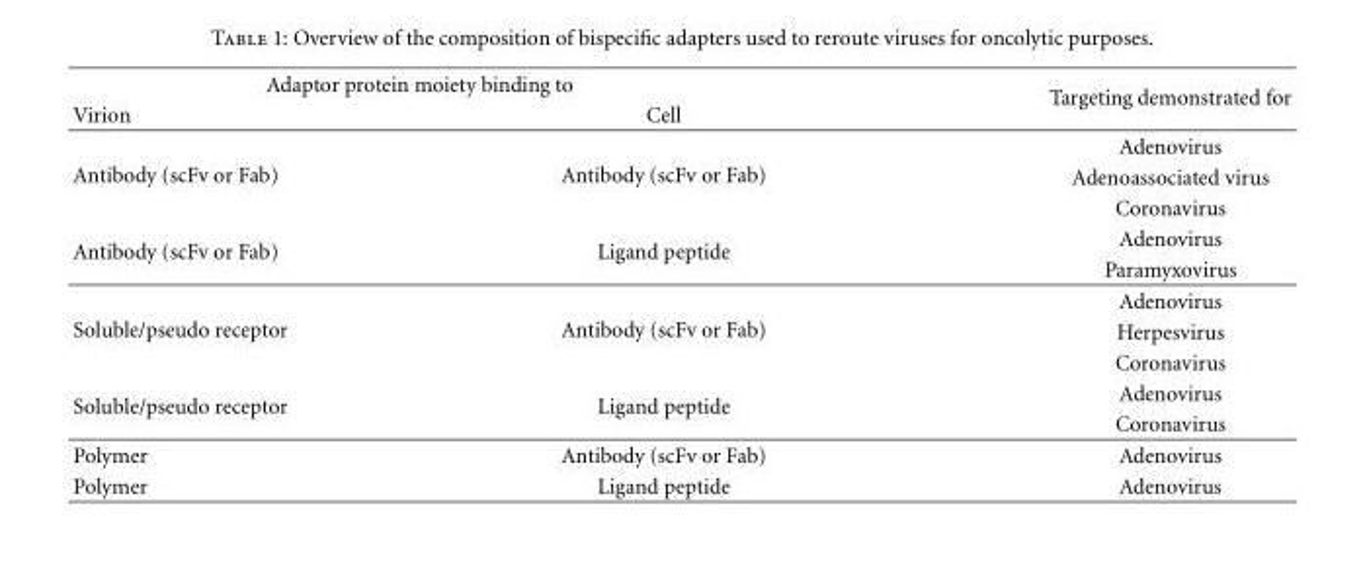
<table><thead><tr><td colspan="2">Adaptor protein moiety binding to</td><td rowspan="2">Targeting demonstrated for</td></tr><tr><td>Virion</td><td>Cell</td></tr></thead><tbody><tr><td rowspan="3">Antibody (scFv or Fab)</td><td rowspan="3">Antibody (scFv or Fab)</td><td>Adenovirus</td></tr><tr><td>Adenoassociated virus</td></tr><tr><td>Coronavirus</td></tr><tr><td rowspan="2">Antibody (scFv or Fab)</td><td rowspan="2">Ligand peptide</td><td>Adenovirus</td></tr><tr><td>Paramyxovirus</td></tr><tr><td rowspan="3">Soluble/pseudo receptor</td><td rowspan="3">Antibody (scFv or Fab)</td><td>Adenovirus</td></tr><tr><td>Herpesvirus</td></tr><tr><td>Coronavirus</td></tr><tr><td rowspan="2">Soluble/pseudo receptor</td><td rowspan="2">Ligand peptide</td><td>Adenovirus</td></tr><tr><td>Coronavirus</td></tr><tr><td>Polymer</td><td>Antibody (scFv or Fab)</td><td>Adenovirus</td></tr><tr><td>Polymer</td><td>Ligand peptide</td><td>Adenovirus</td></tr></tbody></table>